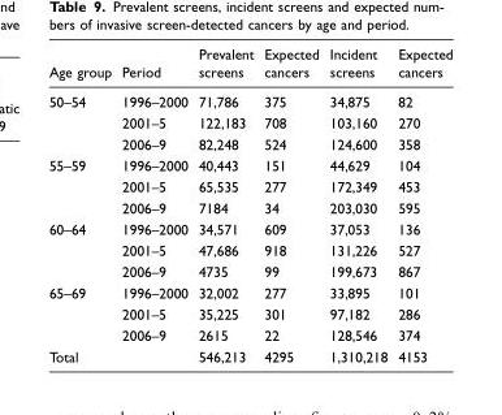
<table><thead><tr><td>Age group</td><td>Period</td><td>Prevalent screens</td><td>Expected cancers</td><td>Incident screens</td><td>Expected cancers</td></tr></thead><tbody><tr><td rowspan="3">50–54</td><td>1996–2000</td><td>71,786</td><td>375</td><td>34,875</td><td>82</td></tr><tr><td>2001–5</td><td>122,183</td><td>708</td><td>103,160</td><td>270</td></tr><tr><td>2006–9</td><td>82,248</td><td>524</td><td>124,600</td><td>358</td></tr><tr><td rowspan="3">55–59</td><td>1996–2000</td><td>40,443</td><td>151</td><td>44,629</td><td>104</td></tr><tr><td>2001–5</td><td>65,535</td><td>277</td><td>172,349</td><td>453</td></tr><tr><td>2006–9</td><td>7184</td><td>34</td><td>203,030</td><td>595</td></tr><tr><td rowspan="3">60–64</td><td>1996–2000</td><td>34,571</td><td>609</td><td>37,053</td><td>136</td></tr><tr><td>2001–5</td><td>47,686</td><td>918</td><td>131,226</td><td>527</td></tr><tr><td>2006–9</td><td>4735</td><td>99</td><td>199,673</td><td>867</td></tr><tr><td rowspan="3">65–69</td><td>1996–2000</td><td>32,002</td><td>277</td><td>33,895</td><td>101</td></tr><tr><td>2001–5</td><td>35,225</td><td>301</td><td>97,182</td><td>286</td></tr><tr><td>2006–9</td><td>2615</td><td>22</td><td>128,546</td><td>374</td></tr><tr><td colspan="2">Total</td><td>546,213</td><td>4295</td><td>1,310,218</td><td>4153</td></tr></tbody></table>